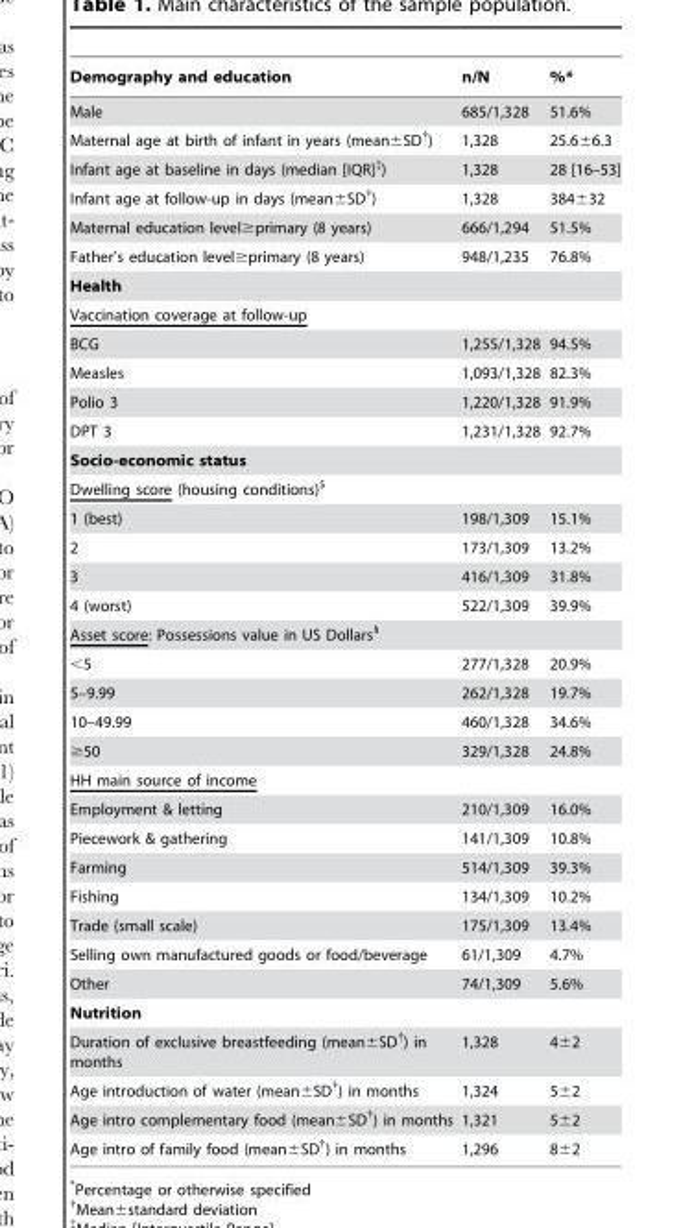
<table><thead><tr><td>Demography and education</td><td>n/N</td><td>%*</td></tr></thead><tbody><tr><td>Male</td><td>685/1,328</td><td>51.6%</td></tr><tr><td>Maternal age at birth of infant in years (mean±SD†)</td><td>1,328</td><td>25.6±6.3</td></tr><tr><td>Infant age at baseline in days (median [IQR]‡)</td><td>1,328</td><td>28 [16–53]</td></tr><tr><td>Infant age at follow-up in days (mean±SD†)</td><td>1,328</td><td>384±32</td></tr><tr><td>Maternal education level≥primary (8 years)</td><td>666/1,294</td><td>51.5%</td></tr><tr><td>Father’s education level≥primary (8 years)</td><td>948/1,235</td><td>76.8%</td></tr><tr><td colspan="3">Health</td></tr><tr><td colspan="3">Vaccination coverage at follow-up</td></tr><tr><td>BCG</td><td>1,255/1,328</td><td>94.5%</td></tr><tr><td>Measles</td><td>1,093/1,328</td><td>82.3%</td></tr><tr><td>Polio 3</td><td>1,220/1,328</td><td>91.9%</td></tr><tr><td>DPT 3</td><td>1,231/1,328</td><td>92.7%</td></tr><tr><td colspan="3">Socio-economic status</td></tr><tr><td colspan="3">Dwelling score (housing conditions)$</td></tr><tr><td>1 (best)</td><td>198/1,309</td><td>15.1%</td></tr><tr><td>2</td><td>173/1,309</td><td>13.2%</td></tr><tr><td>3</td><td>416/1,309</td><td>31.8%</td></tr><tr><td>4 (worst)</td><td>522/1,309</td><td>39.9%</td></tr><tr><td colspan="3">Asset score: Possessions value in US Dollars§</td></tr><tr><td>&lt;5</td><td>277/1,328</td><td>20.9%</td></tr><tr><td>5–9.99</td><td>262/1,328</td><td>19.7%</td></tr><tr><td>10–49.99</td><td>460/1,328</td><td>34.6%</td></tr><tr><td>≥50</td><td>329/1,328</td><td>24.8%</td></tr><tr><td colspan="3">HH main source of income</td></tr><tr><td>Employment &amp; letting</td><td>210/1,309</td><td>16.0%</td></tr><tr><td>Piecework &amp; gathering</td><td>141/1,309</td><td>10.8%</td></tr><tr><td>Farming</td><td>514/1,309</td><td>39.3%</td></tr><tr><td>Fishing</td><td>134/1,309</td><td>10.2%</td></tr><tr><td>Trade (small scale)</td><td>175/1,309</td><td>13.4%</td></tr><tr><td>Selling own manufactured goods or food/beverage</td><td>61/1,309</td><td>4.7%</td></tr><tr><td>Other</td><td>74/1,309</td><td>5.6%</td></tr><tr><td colspan="3">Nutrition</td></tr><tr><td>Duration of exclusive breastfeeding (mean±SD†) in months</td><td>1,328</td><td>4±2</td></tr><tr><td>Age introduction of water (mean±SD†) in months</td><td>1,324</td><td>5±2</td></tr><tr><td>Age intro complementary food (mean±SD†) in months</td><td>1,321</td><td>5±2</td></tr><tr><td>Age intro of family food (mean±SD†) in months</td><td>1,296</td><td>8±2</td></tr></tbody></table>